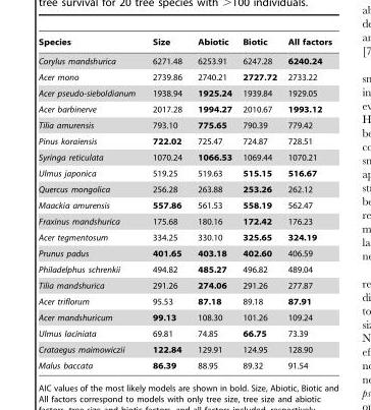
<table><thead><tr><td>Species</td><td>Size</td><td>Abiotic</td><td>Biotic</td><td>All factors</td></tr></thead><tbody><tr><td>Corylus mandshurica</td><td>6271.48</td><td>6253.91</td><td>6247.28</td><td>6240.24</td></tr><tr><td>Acer mono</td><td>2739.86</td><td>2740.21</td><td>2727.72</td><td>2733.22</td></tr><tr><td>Acer pseudo-sieboldianum</td><td>1938.94</td><td>1925.24</td><td>1939.84</td><td>1929.05</td></tr><tr><td>Acer barbinerve</td><td>2017.28</td><td>1994.27</td><td>2010.67</td><td>1993.12</td></tr><tr><td>Tilia amurensis</td><td>793.10</td><td>775.65</td><td>790.39</td><td>779.42</td></tr><tr><td>Pinus koraiensis</td><td>722.02</td><td>725.47</td><td>724.87</td><td>728.51</td></tr><tr><td>Syringa reticulata</td><td>1070.24</td><td>1066.53</td><td>1069.44</td><td>1070.21</td></tr><tr><td>Ulmus japonica</td><td>519.25</td><td>519.63</td><td>515.15</td><td>516.67</td></tr><tr><td>Quercus mongolica</td><td>256.28</td><td>263.88</td><td>253.26</td><td>262.12</td></tr><tr><td>Maackia amurensis</td><td>557.86</td><td>561.53</td><td>558.19</td><td>562.47</td></tr><tr><td>Fraxinus mandshurica</td><td>175.68</td><td>180.16</td><td>172.42</td><td>176.23</td></tr><tr><td>Acer tegmentosum</td><td>334.25</td><td>330.10</td><td>325.65</td><td>324.19</td></tr><tr><td>Prunus padus</td><td>401.65</td><td>403.18</td><td>402.60</td><td>406.59</td></tr><tr><td>Philadelphus schrenkii</td><td>494.82</td><td>485.27</td><td>496.82</td><td>489.04</td></tr><tr><td>Tilia mandshurica</td><td>291.26</td><td>274.06</td><td>291.26</td><td>277.87</td></tr><tr><td>Acer triflorum</td><td>95.53</td><td>87.18</td><td>89.18</td><td>87.91</td></tr><tr><td>Acer mandshuricum</td><td>99.13</td><td>108.30</td><td>101.26</td><td>109.24</td></tr><tr><td>Ulmus laciniata</td><td>69.81</td><td>74.85</td><td>66.75</td><td>73.39</td></tr><tr><td>Crataegus maimowiczii</td><td>122.84</td><td>129.91</td><td>124.95</td><td>128.90</td></tr><tr><td>Malus baccata</td><td>86.39</td><td>88.95</td><td>89.32</td><td>91.54</td></tr></tbody></table>